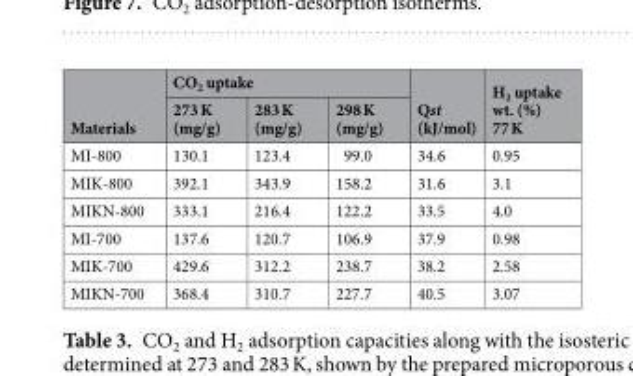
<table><thead><tr><td rowspan="2">Materials</td><td colspan="3">CO<sub>2</sub> uptake</td><td rowspan="2">Qst (kJ/mol)</td><td rowspan="2">H<sub>2</sub> uptake wt. (%) 77 K</td></tr><tr><td>273 K (mg/g)</td><td>283 K (mg/g)</td><td>298 K (mg/g)</td></tr></thead><tbody><tr><td>MI-800</td><td>130.1</td><td>123.4</td><td>99.0</td><td>34.6</td><td>0.95</td></tr><tr><td>MIK-800</td><td>392.1</td><td>343.9</td><td>158.2</td><td>31.6</td><td>3.1</td></tr><tr><td>MIKN-800</td><td>333.1</td><td>216.4</td><td>122.2</td><td>33.5</td><td>4.0</td></tr><tr><td>MI-700</td><td>137.6</td><td>120.7</td><td>106.9</td><td>37.9</td><td>0.98</td></tr><tr><td>MIK-700</td><td>429.6</td><td>312.2</td><td>238.7</td><td>38.2</td><td>2.58</td></tr><tr><td>MIKN-700</td><td>368.4</td><td>310.7</td><td>227.7</td><td>40.5</td><td>3.07</td></tr></tbody></table>